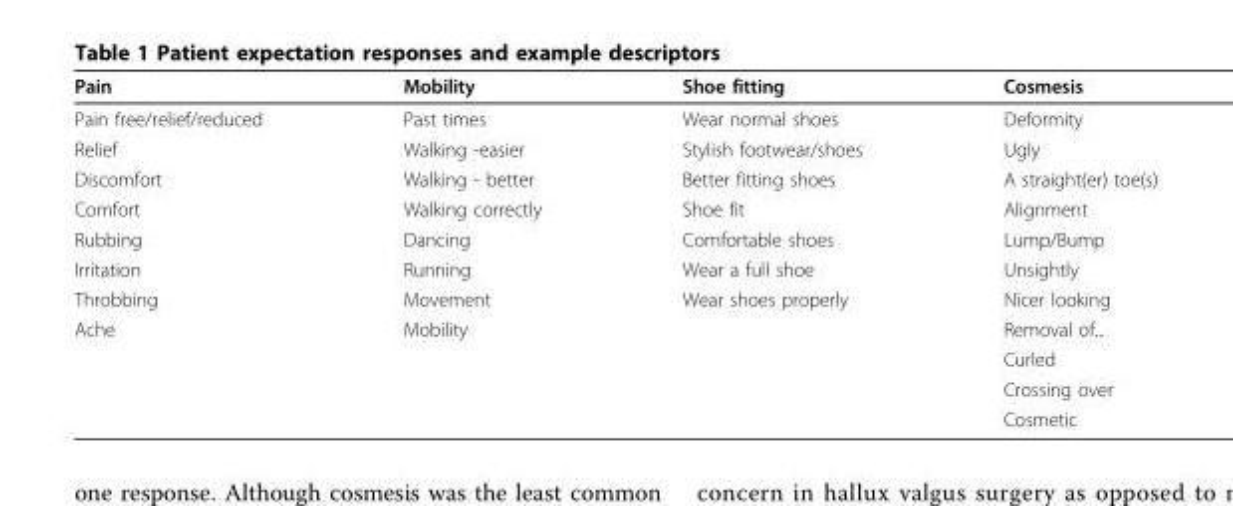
<table><thead><tr><td>Pain</td><td>Mobility</td><td>Shoe fitting</td><td>Cosmesis</td></tr></thead><tbody><tr><td>Pain free/relief/reduced</td><td>Past times</td><td>Wear normal shoes</td><td>Deformity</td></tr><tr><td>Relief</td><td>Walking -easier</td><td>Stylish footwear/shoes</td><td>Ugly</td></tr><tr><td>Discomfort</td><td>Walking - better</td><td>Better fitting shoes</td><td>A straight(er) toe(s)</td></tr><tr><td>Comfort</td><td>Walking correctly</td><td>Shoe fit</td><td>Alignment</td></tr><tr><td>Rubbing</td><td>Dancing</td><td>Comfortable shoes</td><td>Lump/Bump</td></tr><tr><td>Irritation</td><td>Running</td><td>Wear a full shoe</td><td>Unsightly</td></tr><tr><td>Throbbing</td><td>Movement</td><td>Wear shoes properly</td><td>Nicer looking</td></tr><tr><td rowspan="4">Ache</td><td>Mobility</td><td></td><td>Removal of...</td></tr><tr><td></td><td></td><td>Curled</td></tr><tr><td></td><td></td><td>Crossing over</td></tr><tr><td></td><td></td><td>Cosmetic</td></tr></tbody></table>